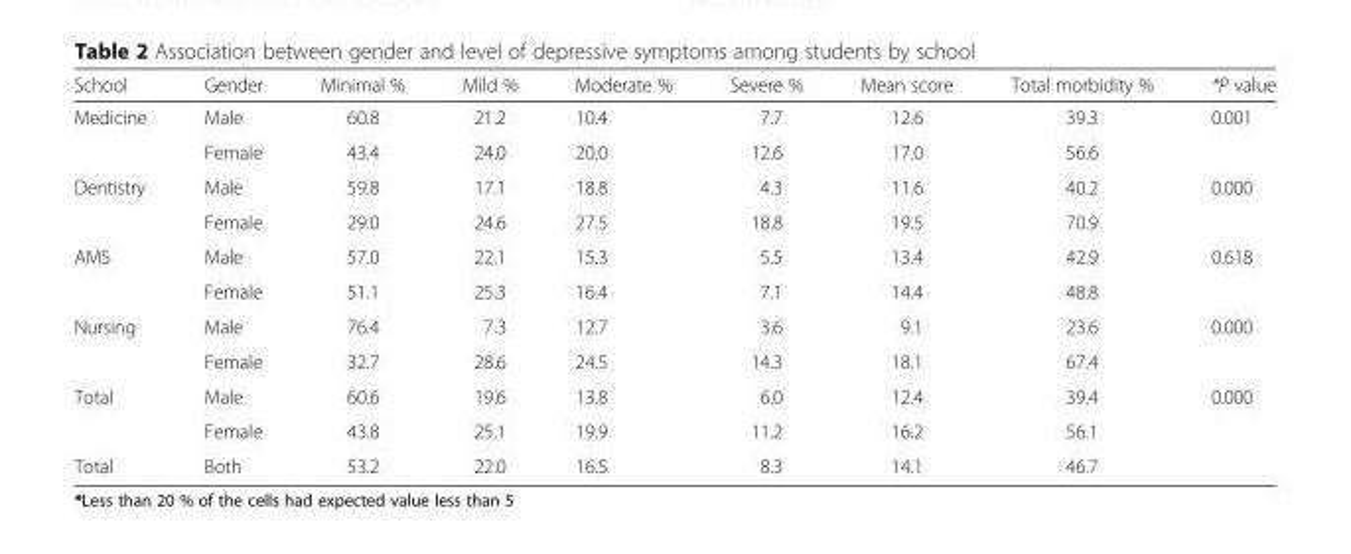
<table><thead><tr><td>School</td><td>Gender</td><td>Minimal %</td><td>Mild %</td><td>Moderate %</td><td>Severe %</td><td>Mean score</td><td>Total morbidity %</td><td>*P value</td></tr></thead><tbody><tr><td rowspan="2">Medicine</td><td>Male</td><td>60.8</td><td>21.2</td><td>10.4</td><td>7.7</td><td>12.6</td><td>39.3</td><td rowspan="2">0.001</td></tr><tr><td>Female</td><td>43.4</td><td>24.0</td><td>20.0</td><td>12.6</td><td>17.0</td><td>56.6</td></tr><tr><td rowspan="2">Dentistry</td><td>Male</td><td>59.8</td><td>17.1</td><td>18.8</td><td>4.3</td><td>11.6</td><td>40.2</td><td rowspan="2">0.000</td></tr><tr><td>Female</td><td>29.0</td><td>24.6</td><td>27.5</td><td>18.8</td><td>19.5</td><td>70.9</td></tr><tr><td rowspan="2">AMS</td><td>Male</td><td>57.0</td><td>22.1</td><td>15.3</td><td>5.5</td><td>13.4</td><td>42.9</td><td rowspan="2">0.618</td></tr><tr><td>Female</td><td>51.1</td><td>25.3</td><td>16.4</td><td>7.1</td><td>14.4</td><td>48.8</td></tr><tr><td rowspan="2">Nursing</td><td>Male</td><td>76.4</td><td>7.3</td><td>12.7</td><td>3.6</td><td>9.1</td><td>23.6</td><td rowspan="2">0.000</td></tr><tr><td>Female</td><td>32.7</td><td>28.6</td><td>24.5</td><td>14.3</td><td>18.1</td><td>67.4</td></tr><tr><td rowspan="2">Total</td><td>Male</td><td>60.6</td><td>19.6</td><td>13.8</td><td>6.0</td><td>12.4</td><td>39.4</td><td rowspan="2">0.000</td></tr><tr><td>Female</td><td>43.8</td><td>25.1</td><td>19.9</td><td>11.2</td><td>16.2</td><td>56.1</td></tr><tr><td>Total</td><td>Both</td><td>53.2</td><td>22.0</td><td>16.5</td><td>8.3</td><td>14.1</td><td>46.7</td><td></td></tr></tbody></table>